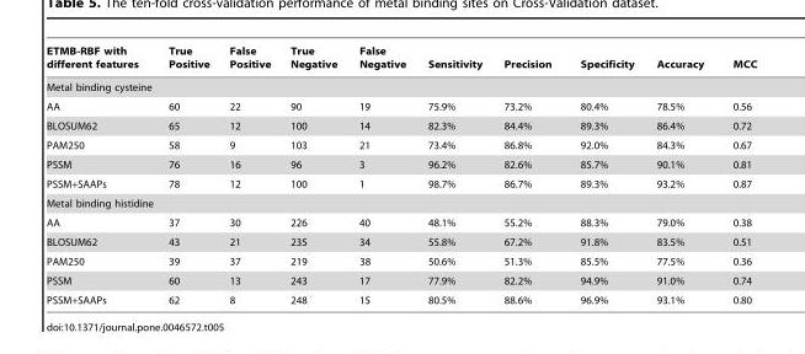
<table><thead><tr><td>ETMB-RBF with different features</td><td>True Positive</td><td>False Positive</td><td>True Negative</td><td>False Negative</td><td>Sensitivity</td><td>Precision</td><td>Specificity</td><td>Accuracy</td><td>MCC</td></tr></thead><tbody><tr><td colspan="10">Metal binding cysteine</td></tr><tr><td>AA</td><td>60</td><td>22</td><td>90</td><td>19</td><td>75.9%</td><td>73.2%</td><td>80.4%</td><td>78.5%</td><td>0.56</td></tr><tr><td>BLOSUM62</td><td>65</td><td>12</td><td>100</td><td>14</td><td>82.3%</td><td>84.4%</td><td>89.3%</td><td>86.4%</td><td>0.72</td></tr><tr><td>PAM250</td><td>58</td><td>9</td><td>103</td><td>21</td><td>73.4%</td><td>86.8%</td><td>92.0%</td><td>84.3%</td><td>0.67</td></tr><tr><td>PSSM</td><td>76</td><td>16</td><td>96</td><td>3</td><td>96.2%</td><td>82.6%</td><td>85.7%</td><td>90.1%</td><td>0.81</td></tr><tr><td>PSSM+SAAPs</td><td>78</td><td>12</td><td>100</td><td>1</td><td>98.7%</td><td>86.7%</td><td>89.3%</td><td>93.2%</td><td>0.87</td></tr><tr><td colspan="10">Metal binding histidine</td></tr><tr><td>AA</td><td>37</td><td>30</td><td>226</td><td>40</td><td>48.1%</td><td>55.2%</td><td>88.3%</td><td>79.0%</td><td>0.38</td></tr><tr><td>BLOSUM62</td><td>43</td><td>21</td><td>235</td><td>34</td><td>55.8%</td><td>67.2%</td><td>91.8%</td><td>83.5%</td><td>0.51</td></tr><tr><td>PAM250</td><td>39</td><td>37</td><td>219</td><td>38</td><td>50.6%</td><td>51.3%</td><td>85.5%</td><td>77.5%</td><td>0.36</td></tr><tr><td>PSSM</td><td>60</td><td>13</td><td>243</td><td>17</td><td>77.9%</td><td>82.2%</td><td>94.9%</td><td>91.0%</td><td>0.74</td></tr><tr><td>PSSM+SAAPs</td><td>62</td><td>8</td><td>248</td><td>15</td><td>80.5%</td><td>88.6%</td><td>96.9%</td><td>93.1%</td><td>0.80</td></tr></tbody></table>